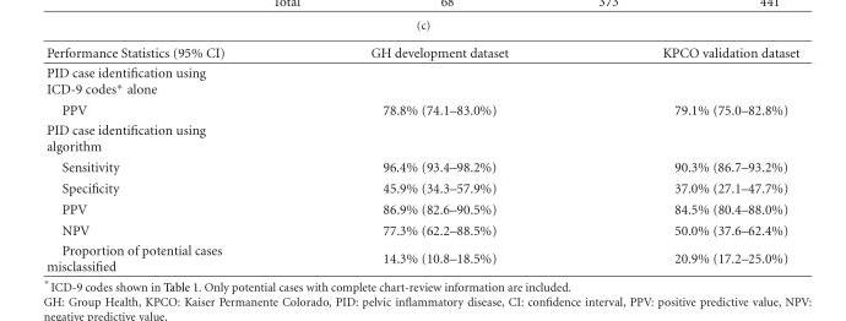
<table><tbody><tr><td>Performance Statistics (95% CI)</td><td>GH development dataset</td><td>KPCO validation dataset</td></tr><tr><td colspan="3">PID case identification using ICD-9 codes∗ alone</td></tr><tr><td>PPV</td><td>78.8% (74.1–83.0%)</td><td>79.1% (75.0–82.8%)</td></tr><tr><td colspan="3">PID case identification using algorithm</td></tr><tr><td>Sensitivity</td><td>96.4% (93.4–98.2%)</td><td>90.3% (86.7–93.2%)</td></tr><tr><td>Specificity</td><td>45.9% (34.3–57.9%)</td><td>37.0% (27.1–47.7%)</td></tr><tr><td>PPV</td><td>86.9% (82.6–90.5%)</td><td>84.5% (80.4–88.0%)</td></tr><tr><td>NPV</td><td>77.3% (62.2–88.5%)</td><td>50.0% (37.6–62.4%)</td></tr><tr><td>Proportion of potential cases misclassified</td><td>14.3% (10.8–18.5%)</td><td>20.9% (17.2–25.0%)</td></tr></tbody></table>